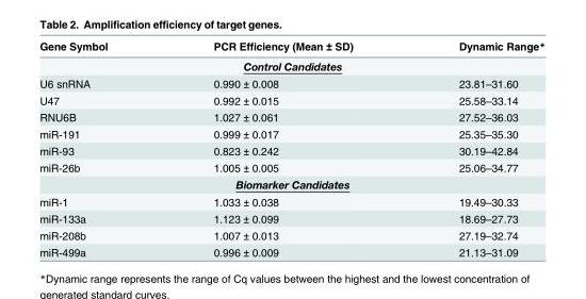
<table><thead><tr><td>Gene Symbol</td><td>PCR Efficiency (Mean ± SD)</td><td>Dynamic Range*</td></tr></thead><tbody><tr><td colspan="3">Control Candidates</td></tr><tr><td>U6 snRNA</td><td>0.990 ± 0.008</td><td>23.81–31.60</td></tr><tr><td>U47</td><td>0.992 ± 0.015</td><td>25.58–33.14</td></tr><tr><td>RNU6B</td><td>1.027 ± 0.061</td><td>27.52–36.03</td></tr><tr><td>miR-191</td><td>0.999 ± 0.017</td><td>25.35–35.30</td></tr><tr><td>miR-93</td><td>0.823 ± 0.242</td><td>30.19–42.84</td></tr><tr><td>miR-26b</td><td>1.005 ± 0.005</td><td>25.06–34.77</td></tr><tr><td colspan="3">Biomarker Candidates</td></tr><tr><td>miR-1</td><td>1.033 ± 0.038</td><td>19.49–30.33</td></tr><tr><td>miR-133a</td><td>1.123 ± 0.099</td><td>18.69–27.73</td></tr><tr><td>miR-208b</td><td>1.007 ± 0.013</td><td>27.19–32.74</td></tr><tr><td>miR-499a</td><td>0.996 ± 0.009</td><td>21.13–31.09</td></tr></tbody></table>